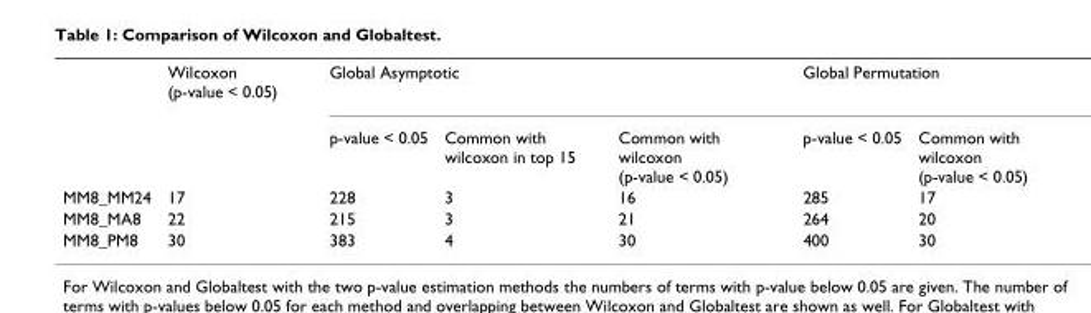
<table><thead><tr><td rowspan="2"></td><td rowspan="2">Wilcoxon (p-value &lt; 0.05)</td><td colspan="3">Global Asymptotic</td><td colspan="2">Global Permutation</td></tr><tr><td>p-value &lt; 0.05</td><td>Common with wilcoxon in top 15</td><td>Common with wilcoxon (p-value &lt; 0.05)</td><td>p-value &lt; 0.05</td><td>Common with wilcoxon (p-value &lt; 0.05)</td></tr></thead><tbody><tr><td>MM8_MM24</td><td>17</td><td>228</td><td>3</td><td>16</td><td>285</td><td>17</td></tr><tr><td>MM8_MA8</td><td>22</td><td>215</td><td>3</td><td>21</td><td>264</td><td>20</td></tr><tr><td>MM8_PM8</td><td>30</td><td>383</td><td>4</td><td>30</td><td>400</td><td>30</td></tr></tbody></table>